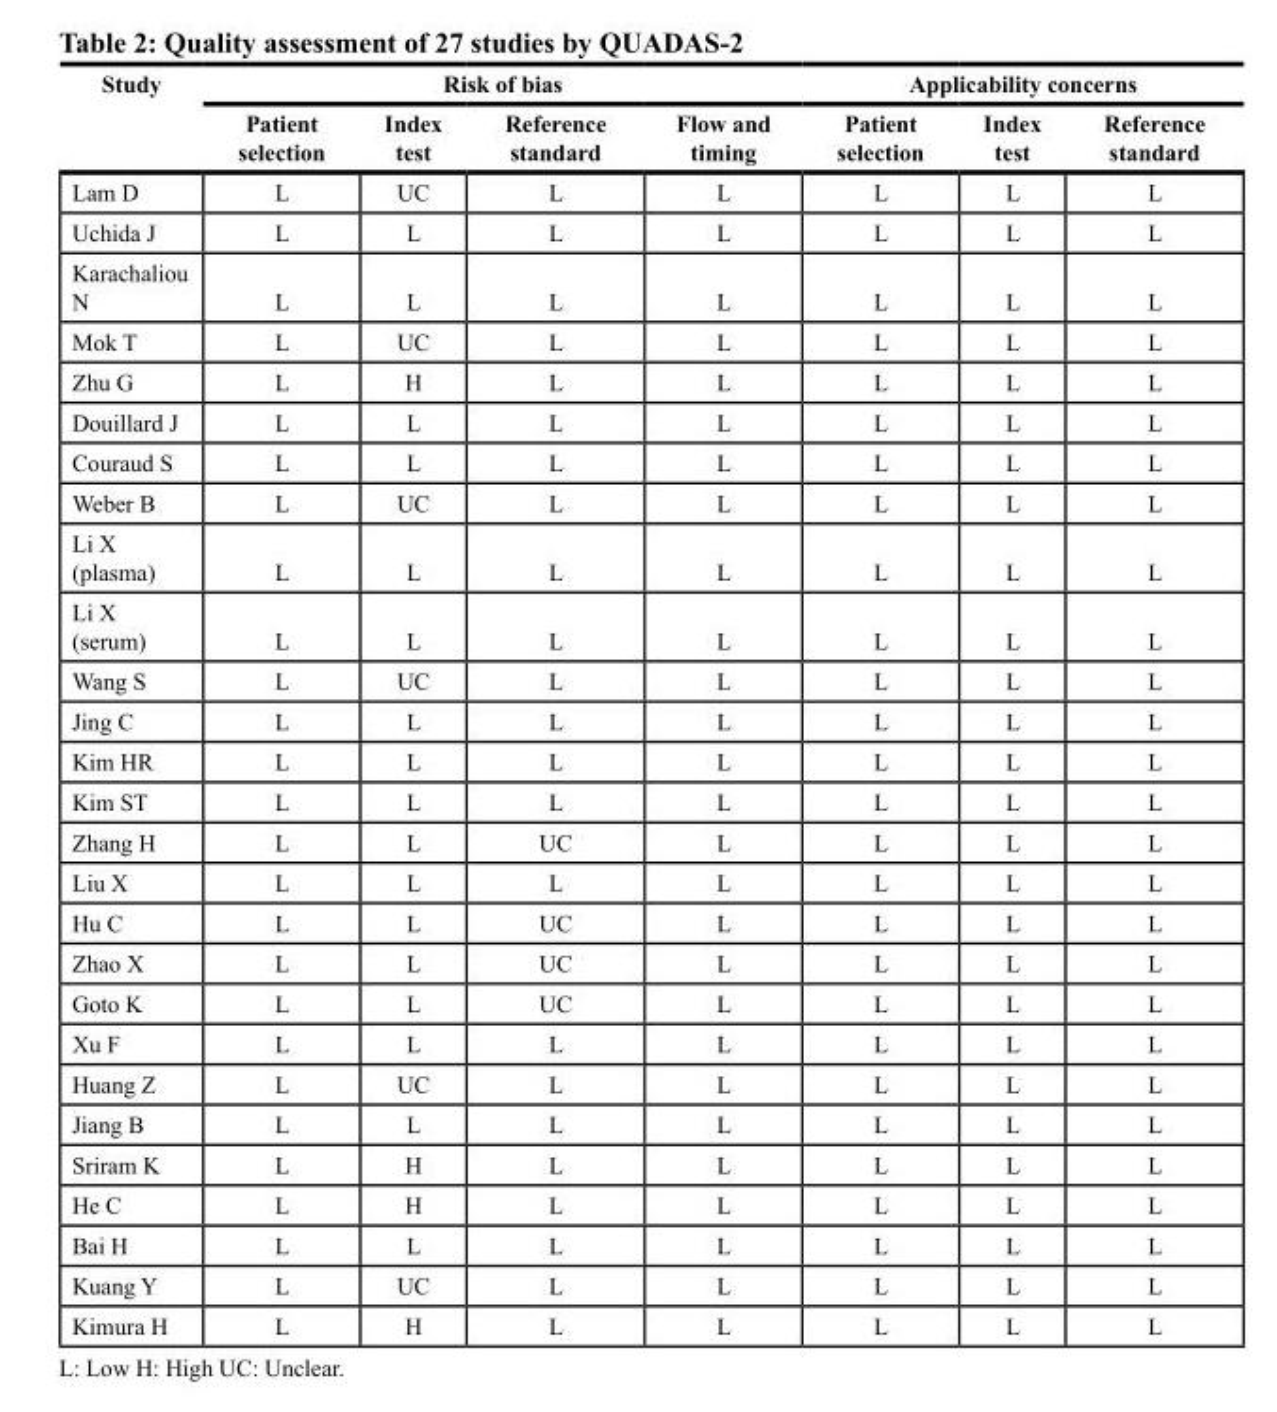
<table><thead><tr><td rowspan="2">Study</td><td colspan="4">Risk of bias</td><td colspan="3">Applicability concerns</td></tr><tr><td>Patient selection</td><td>Index test</td><td>Reference standard</td><td>Flow and timing</td><td>Patient selection</td><td>Index test</td><td>Reference standard</td></tr></thead><tbody><tr><td>Lam D</td><td>L</td><td>UC</td><td>L</td><td>L</td><td>L</td><td>L</td><td>L</td></tr><tr><td>Uchida J</td><td>L</td><td>L</td><td>L</td><td>L</td><td>L</td><td>L</td><td>L</td></tr><tr><td>Karachaliou N</td><td>L</td><td>L</td><td>L</td><td>L</td><td>L</td><td>L</td><td>L</td></tr><tr><td>Mok T</td><td>L</td><td>UC</td><td>L</td><td>L</td><td>L</td><td>L</td><td>L</td></tr><tr><td>Zhu G</td><td>L</td><td>H</td><td>L</td><td>L</td><td>L</td><td>L</td><td>L</td></tr><tr><td>Douillard J</td><td>L</td><td>L</td><td>L</td><td>L</td><td>L</td><td>L</td><td>L</td></tr><tr><td>Couraud S</td><td>L</td><td>L</td><td>L</td><td>L</td><td>L</td><td>L</td><td>L</td></tr><tr><td>Weber B</td><td>L</td><td>UC</td><td>L</td><td>L</td><td>L</td><td>L</td><td>L</td></tr><tr><td>Li X (plasma)</td><td>L</td><td>L</td><td>L</td><td>L</td><td>L</td><td>L</td><td>L</td></tr><tr><td>Li X (serum)</td><td>L</td><td>L</td><td>L</td><td>L</td><td>L</td><td>L</td><td>L</td></tr><tr><td>Wang S</td><td>L</td><td>UC</td><td>L</td><td>L</td><td>L</td><td>L</td><td>L</td></tr><tr><td>Jing C</td><td>L</td><td>L</td><td>L</td><td>L</td><td>L</td><td>L</td><td>L</td></tr><tr><td>Kim HR</td><td>L</td><td>L</td><td>L</td><td>L</td><td>L</td><td>L</td><td>L</td></tr><tr><td>Kim ST</td><td>L</td><td>L</td><td>L</td><td>L</td><td>L</td><td>L</td><td>L</td></tr><tr><td>Zhang H</td><td>L</td><td>L</td><td>UC</td><td>L</td><td>L</td><td>L</td><td>L</td></tr><tr><td>Liu X</td><td>L</td><td>L</td><td>L</td><td>L</td><td>L</td><td>L</td><td>L</td></tr><tr><td>Hu C</td><td>L</td><td>L</td><td>UC</td><td>L</td><td>L</td><td>L</td><td>L</td></tr><tr><td>Zhao X</td><td>L</td><td>L</td><td>UC</td><td>L</td><td>L</td><td>L</td><td>L</td></tr><tr><td>Goto K</td><td>L</td><td>L</td><td>UC</td><td>L</td><td>L</td><td>L</td><td>L</td></tr><tr><td>Xu F</td><td>L</td><td>L</td><td>L</td><td>L</td><td>L</td><td>L</td><td>L</td></tr><tr><td>Huang Z</td><td>L</td><td>UC</td><td>L</td><td>L</td><td>L</td><td>L</td><td>L</td></tr><tr><td>Jiang B</td><td>L</td><td>L</td><td>L</td><td>L</td><td>L</td><td>L</td><td>L</td></tr><tr><td>Sriram K</td><td>L</td><td>H</td><td>L</td><td>L</td><td>L</td><td>L</td><td>L</td></tr><tr><td>He C</td><td>L</td><td>H</td><td>L</td><td>L</td><td>L</td><td>L</td><td>L</td></tr><tr><td>Bai H</td><td>L</td><td>L</td><td>L</td><td>L</td><td>L</td><td>L</td><td>L</td></tr><tr><td>Kuang Y</td><td>L</td><td>UC</td><td>L</td><td>L</td><td>L</td><td>L</td><td>L</td></tr><tr><td>Kimura H</td><td>L</td><td>H</td><td>L</td><td>L</td><td>L</td><td>L</td><td>L</td></tr></tbody></table>